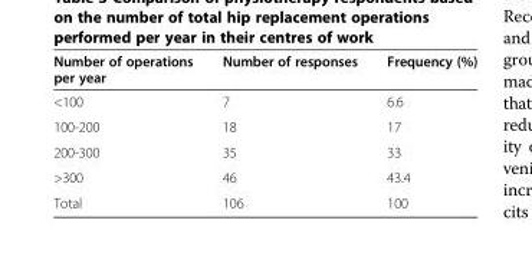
<table><thead><tr><td>Number of operations per year</td><td>Number of responses</td><td>Frequency (%)</td></tr></thead><tbody><tr><td>&lt;100</td><td>7</td><td>6.6</td></tr><tr><td>100-200</td><td>18</td><td>17</td></tr><tr><td>200-300</td><td>35</td><td>33</td></tr><tr><td>&gt;300</td><td>46</td><td>43.4</td></tr><tr><td>Total</td><td>106</td><td>100</td></tr></tbody></table>